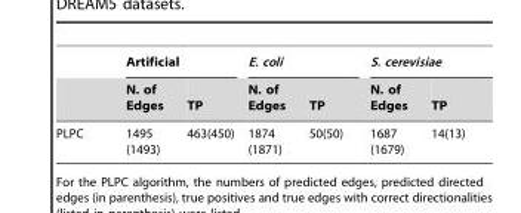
<table><thead><tr><td rowspan="2"></td><td colspan="2">Artificial</td><td colspan="2">E. coli</td><td colspan="2">S. cerevisiae</td></tr><tr><td>N. of Edges</td><td>TP</td><td>N. of Edges</td><td>TP</td><td>N. of Edges</td><td>TP</td></tr></thead><tbody><tr><td>PLPC</td><td>1495 (1493)</td><td>463(450)</td><td>1874 (1871)</td><td>50(50)</td><td>1687 (1679)</td><td>14(13)</td></tr></tbody></table>